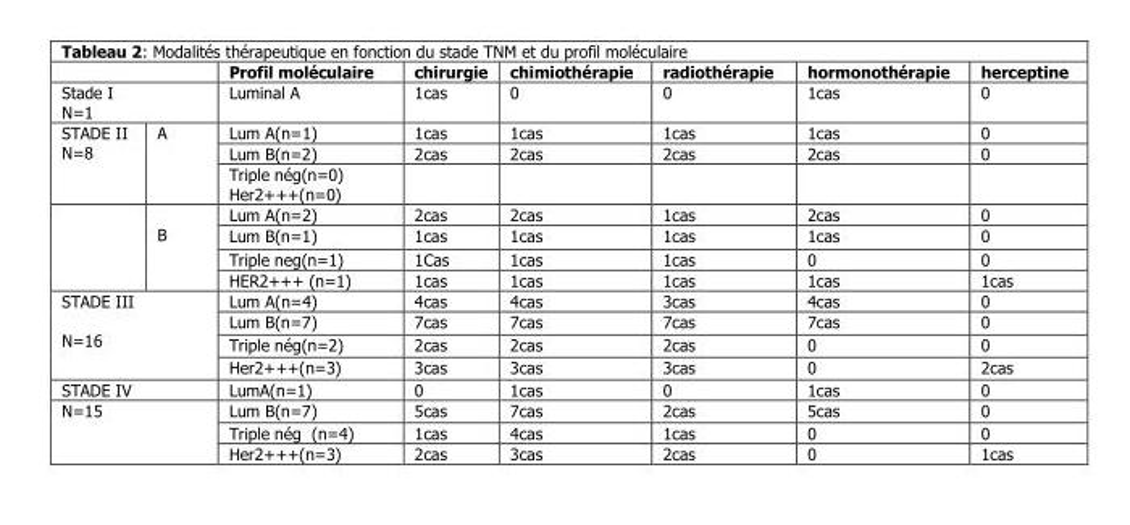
<table><thead><tr><td></td><td></td><td>Profil moléculaire</td><td>chirurgie</td><td>chimiothérapie</td><td>radiothérapie</td><td>hormonothérapie</td><td>herceptine</td></tr></thead><tbody><tr><td colspan="2">Stade I N=1</td><td>Luminal A</td><td>1cas</td><td>0</td><td>0</td><td>1cas</td><td>0</td></tr><tr><td rowspan="7">STADE II N=8</td><td rowspan="3">A</td><td>Lum A(n=1)</td><td>1cas</td><td>1cas</td><td>1cas</td><td>1cas</td><td>0</td></tr><tr><td>Lum B(n=2)</td><td>2cas</td><td>2cas</td><td>2cas</td><td>2cas</td><td>0</td></tr><tr><td>Triple nég(n=0) Her2+++(n=0)</td><td></td><td></td><td></td><td></td><td></td></tr><tr><td rowspan="4">B</td><td>Lum A(n=2)</td><td>2cas</td><td>2cas</td><td>1cas</td><td>2cas</td><td>0</td></tr><tr><td>Lum B(n=1)</td><td>1cas</td><td>1cas</td><td>1cas</td><td>1cas</td><td>0</td></tr><tr><td>Triple neg(n=1)</td><td>1Cas</td><td>1cas</td><td>1cas</td><td>0</td><td>0</td></tr><tr><td>HER2+++ (n=1)</td><td>1cas</td><td>1cas</td><td>1cas</td><td>1cas</td><td>1cas</td></tr><tr><td rowspan="4" colspan="2">STADE III N=16</td><td>Lum A(n=4)</td><td>4cas</td><td>4cas</td><td>3cas</td><td>4cas</td><td>0</td></tr><tr><td>Lum B(n=7)</td><td>7cas</td><td>7cas</td><td>7cas</td><td>7cas</td><td>0</td></tr><tr><td>Triple nég(n=2)</td><td>2cas</td><td>2cas</td><td>2cas</td><td>0</td><td>0</td></tr><tr><td>Her2+++(n=3)</td><td>3cas</td><td>3cas</td><td>3cas</td><td>0</td><td>2cas</td></tr><tr><td colspan="2">STADE IV</td><td>LumA(n=1)</td><td>0</td><td>1cas</td><td>0</td><td>1cas</td><td>0</td></tr><tr><td rowspan="3" colspan="2">N=15</td><td>Lum B(n=7)</td><td>5cas</td><td>7cas</td><td>2cas</td><td>5cas</td><td>0</td></tr><tr><td>Triple nég (n=4)</td><td>1cas</td><td>4cas</td><td>1cas</td><td>0</td><td>0</td></tr><tr><td>Her2+++(n=3)</td><td>2cas</td><td>3cas</td><td>2cas</td><td>0</td><td>1cas</td></tr></tbody></table>